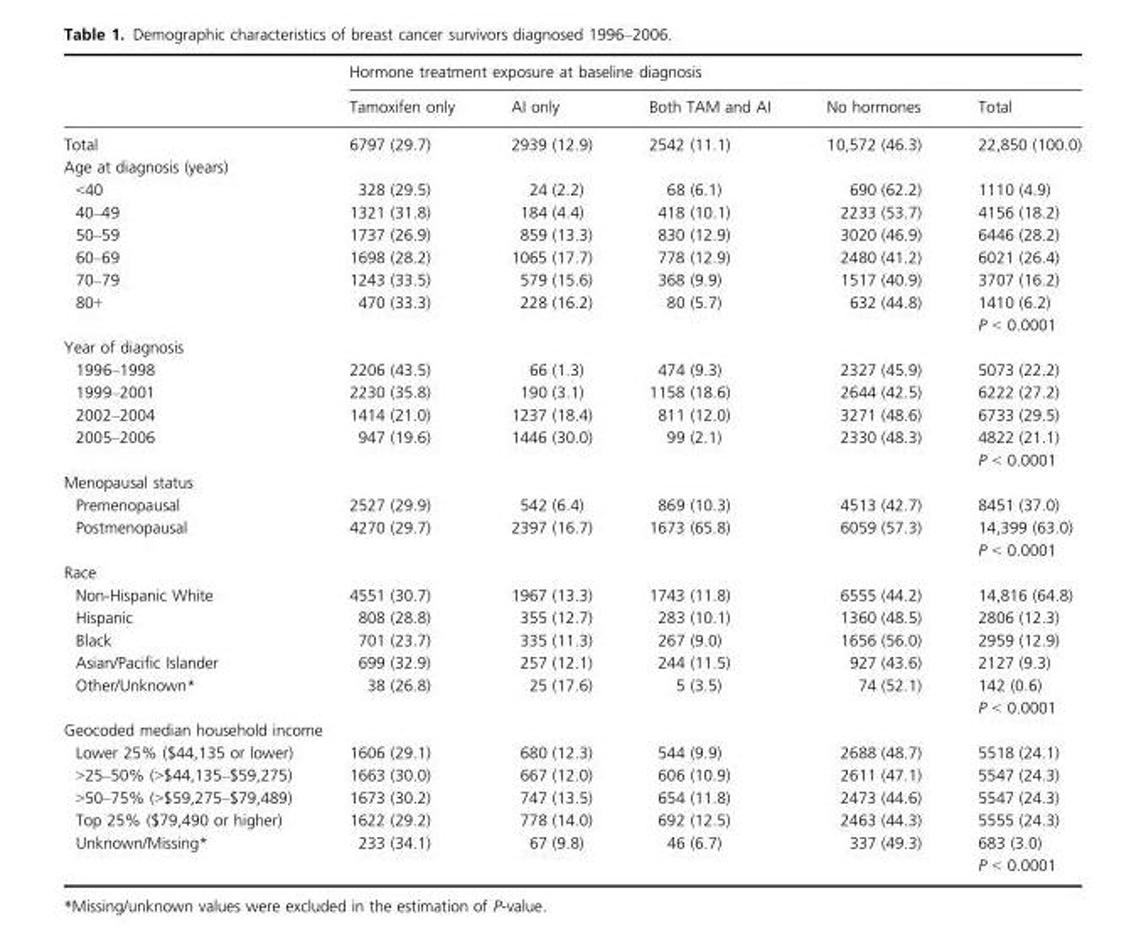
<table><thead><tr><td rowspan="2"></td><td colspan="5">Hormone treatment exposure at baseline diagnosis</td></tr><tr><td>Tamoxifen only</td><td>AI only</td><td>Both TAM and AI</td><td>No hormones</td><td>Total</td></tr></thead><tbody><tr><td>Total</td><td>6797 (29.7)</td><td>2939 (12.9)</td><td>2542 (11.1)</td><td>10,572 (46.3)</td><td>22,850 (100.0)</td></tr><tr><td colspan="6">Age at diagnosis (years)</td></tr><tr><td>&lt;40</td><td>328 (29.5)</td><td>24 (2.2)</td><td>68 (6.1)</td><td>690 (62.2)</td><td>1110 (4.9)</td></tr><tr><td>40–49</td><td>1321 (31.8)</td><td>184 (4.4)</td><td>418 (10.1)</td><td>2233 (53.7)</td><td>4156 (18.2)</td></tr><tr><td>50–59</td><td>1737 (26.9)</td><td>859 (13.3)</td><td>830 (12.9)</td><td>3020 (46.9)</td><td>6446 (28.2)</td></tr><tr><td>60–69</td><td>1698 (28.2)</td><td>1065 (17.7)</td><td>778 (12.9)</td><td>2480 (41.2)</td><td>6021 (26.4)</td></tr><tr><td>70–79</td><td>1243 (33.5)</td><td>579 (15.6)</td><td>368 (9.9)</td><td>1517 (40.9)</td><td>3707 (16.2)</td></tr><tr><td rowspan="2">80+</td><td>470 (33.3)</td><td>228 (16.2)</td><td>80 (5.7)</td><td>632 (44.8)</td><td>1410 (6.2)</td></tr><tr><td></td><td></td><td></td><td></td><td>P &lt; 0.0001</td></tr><tr><td colspan="6">Year of diagnosis</td></tr><tr><td>1996–1998</td><td>2206 (43.5)</td><td>66 (1.3)</td><td>474 (9.3)</td><td>2327 (45.9)</td><td>5073 (22.2)</td></tr><tr><td>1999–2001</td><td>2230 (35.8)</td><td>190 (3.1)</td><td>1158 (18.6)</td><td>2644 (42.5)</td><td>6222 (27.2)</td></tr><tr><td>2002–2004</td><td>1414 (21.0)</td><td>1237 (18.4)</td><td>811 (12.0)</td><td>3271 (48.6)</td><td>6733 (29.5)</td></tr><tr><td rowspan="2">2005–2006</td><td>947 (19.6)</td><td>1446 (30.0)</td><td>99 (2.1)</td><td>2330 (48.3)</td><td>4822 (21.1)</td></tr><tr><td></td><td></td><td></td><td></td><td>P &lt; 0.0001</td></tr><tr><td colspan="6">Menopausal status</td></tr><tr><td>Premenopausal</td><td>2527 (29.9)</td><td>542 (6.4)</td><td>869 (10.3)</td><td>4513 (42.7)</td><td>8451 (37.0)</td></tr><tr><td rowspan="2">Postmenopausal</td><td>4270 (29.7)</td><td>2397 (16.7)</td><td>1673 (65.8)</td><td>6059 (57.3)</td><td>14,399 (63.0)</td></tr><tr><td></td><td></td><td></td><td></td><td>P &lt; 0.0001</td></tr><tr><td colspan="6">Race</td></tr><tr><td>Non-Hispanic White</td><td>4551 (30.7)</td><td>1967 (13.3)</td><td>1743 (11.8)</td><td>6555 (44.2)</td><td>14,816 (64.8)</td></tr><tr><td>Hispanic</td><td>808 (28.8)</td><td>355 (12.7)</td><td>283 (10.1)</td><td>1360 (48.5)</td><td>2806 (12.3)</td></tr><tr><td>Black</td><td>701 (23.7)</td><td>335 (11.3)</td><td>267 (9.0)</td><td>1656 (56.0)</td><td>2959 (12.9)</td></tr><tr><td>Asian/Pacific Islander</td><td>699 (32.9)</td><td>257 (12.1)</td><td>244 (11.5)</td><td>927 (43.6)</td><td>2127 (9.3)</td></tr><tr><td rowspan="2">Other/Unknown*</td><td>38 (26.8)</td><td>25 (17.6)</td><td>5 (3.5)</td><td>74 (52.1)</td><td>142 (0.6)</td></tr><tr><td></td><td></td><td></td><td></td><td>P &lt; 0.0001</td></tr><tr><td colspan="6">Geocoded median household income</td></tr><tr><td>Lower 25% ($44,135 or lower)</td><td>1606 (29.1)</td><td>680 (12.3)</td><td>544 (9.9)</td><td>2688 (48.7)</td><td>5518 (24.1)</td></tr><tr><td>&gt;25–50% (&gt;$44,135–$59,275)</td><td>1663 (30.0)</td><td>667 (12.0)</td><td>606 (10.9)</td><td>2611 (47.1)</td><td>5547 (24.3)</td></tr><tr><td>&gt;50–75% (&gt;$59,275–$79,489)</td><td>1673 (30.2)</td><td>747 (13.5)</td><td>654 (11.8)</td><td>2473 (44.6)</td><td>5547 (24.3)</td></tr><tr><td>Top 25% ($79,490 or higher)</td><td>1622 (29.2)</td><td>778 (14.0)</td><td>692 (12.5)</td><td>2463 (44.3)</td><td>5555 (24.3)</td></tr><tr><td rowspan="2">Unknown/Missing*</td><td>233 (34.1)</td><td>67 (9.8)</td><td>46 (6.7)</td><td>337 (49.3)</td><td>683 (3.0)</td></tr><tr><td></td><td></td><td></td><td></td><td>P &lt; 0.0001</td></tr></tbody></table>